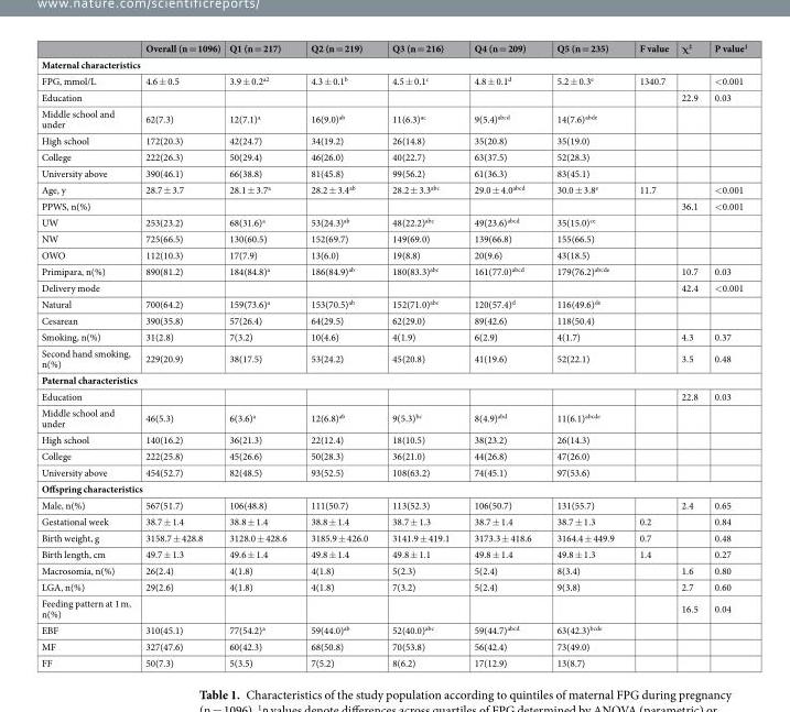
<table><thead><tr><td></td><td>Overall (n = 1096)</td><td>Q1 (n = 217)</td><td>Q2 (n = 219)</td><td>Q3 (n = 216)</td><td>Q4 (n = 209)</td><td>Q5 (n = 235)</td><td>F value</td><td>χ<sup>2</sup></td><td>P value<sup>1</sup></td></tr></thead><tbody><tr><td colspan="10">Maternal characteristics</td></tr><tr><td>FPG, mmol/L</td><td>4.6 ± 0.5</td><td>3.9 ± 0.2<sup>a2</sup></td><td>4.3 ± 0.1<sup>b</sup></td><td>4.5 ± 0.1<sup>c</sup></td><td>4.8 ± 0.1<sup>d</sup></td><td>5.2 ± 0.3<sup>e</sup></td><td>1340.7</td><td></td><td>&lt;0.001</td></tr><tr><td>Education</td><td></td><td></td><td></td><td></td><td></td><td></td><td></td><td>22.9</td><td>0.03</td></tr><tr><td>Middle school and under</td><td>62(7.3)</td><td>12(7.1)<sup>a</sup></td><td>16(9.0)<sup>ab</sup></td><td>11(6.3)<sup>ac</sup></td><td>9(5.4)<sup>abcd</sup></td><td>14(7.6)<sup>abde</sup></td><td></td><td></td><td></td></tr><tr><td>High school</td><td>172(20.3)</td><td>42(24.7)</td><td>34(19.2)</td><td>26(14.8)</td><td>35(20.8)</td><td>35(19.0)</td><td></td><td></td><td></td></tr><tr><td>College</td><td>222(26.3)</td><td>50(29.4)</td><td>46(26.0)</td><td>40(22.7)</td><td>63(37.5)</td><td>52(28.3)</td><td></td><td></td><td></td></tr><tr><td>University above</td><td>390(46.1)</td><td>66(38.8)</td><td>81(45.8)</td><td>99(56.2)</td><td>61(36.3)</td><td>83(45.1)</td><td></td><td></td><td></td></tr><tr><td>Age, y</td><td>28.7 ± 3.7</td><td>28.1 ± 3.7<sup>a</sup></td><td>28.2 ± 3.4<sup>ab</sup></td><td>28.2 ± 3.3<sup>abc</sup></td><td>29.0 ± 4.0<sup>abcd</sup></td><td>30.0 ± 3.8<sup>e</sup></td><td>11.7</td><td></td><td>&lt;0.001</td></tr><tr><td>PPWS, n(%)</td><td></td><td></td><td></td><td></td><td></td><td></td><td></td><td>36.1</td><td>&lt;0.001</td></tr><tr><td>UW</td><td>253(23.2)</td><td>68(31.6)<sup>a</sup></td><td>53(24.3)<sup>ab</sup></td><td>48(22.2)<sup>abc</sup></td><td>49(23.6)<sup>abcd</sup></td><td>35(15.0)<sup>ce</sup></td><td></td><td></td><td></td></tr><tr><td>NW</td><td>725(66.5)</td><td>130(60.5)</td><td>152(69.7)</td><td>149(69.0)</td><td>139(66.8)</td><td>155(66.5)</td><td></td><td></td><td></td></tr><tr><td>OWO</td><td>112(10.3)</td><td>17(7.9)</td><td>13(6.0)</td><td>19(8.8)</td><td>20(9.6)</td><td>43(18.5)</td><td></td><td></td><td></td></tr><tr><td>Primipara, n(%)</td><td>890(81.2)</td><td>184(84.8)<sup>a</sup></td><td>186(84.9)<sup>ab</sup></td><td>180(83.3)<sup>abc</sup></td><td>161(77.0)<sup>abcd</sup></td><td>179(76.2)<sup>abcde</sup></td><td></td><td>10.7</td><td>0.03</td></tr><tr><td>Delivery mode</td><td></td><td></td><td></td><td></td><td></td><td></td><td></td><td>42.4</td><td>&lt;0.001</td></tr><tr><td>Natural</td><td>700(64.2)</td><td>159(73.6)<sup>a</sup></td><td>153(70.5)<sup>ab</sup></td><td>152(71.0)<sup>abc</sup></td><td>120(57.4)<sup>d</sup></td><td>116(49.6)<sup>de</sup></td><td></td><td></td><td></td></tr><tr><td>Cesarean</td><td>390(35.8)</td><td>57(26.4)</td><td>64(29.5)</td><td>62(29.0)</td><td>89(42.6)</td><td>118(50.4)</td><td></td><td></td><td></td></tr><tr><td>Smoking, n(%)</td><td>31(2.8)</td><td>7(3.2)</td><td>10(4.6)</td><td>4(1.9)</td><td>6(2.9)</td><td>4(1.7)</td><td></td><td>4.3</td><td>0.37</td></tr><tr><td>Second hand smoking, n(%)</td><td>229(20.9)</td><td>38(17.5)</td><td>53(24.2)</td><td>45(20.8)</td><td>41(19.6)</td><td>52(22.1)</td><td></td><td>3.5</td><td>0.48</td></tr><tr><td colspan="10">Paternal characteristics</td></tr><tr><td>Education</td><td></td><td></td><td></td><td></td><td></td><td></td><td></td><td>22.8</td><td>0.03</td></tr><tr><td>Middle school and under</td><td>46(5.3)</td><td>6(3.6)<sup>a</sup></td><td>12(6.8)<sup>ab</sup></td><td>9(5.3)<sup>bc</sup></td><td>8(4.9)<sup>abd</sup></td><td>11(6.1)<sup>abcde</sup></td><td></td><td></td><td></td></tr><tr><td>High school</td><td>140(16.2)</td><td>36(21.3)</td><td>22(12.4)</td><td>18(10.5)</td><td>38(23.2)</td><td>26(14.3)</td><td></td><td></td><td></td></tr><tr><td>College</td><td>222(25.8)</td><td>45(26.6)</td><td>50(28.3)</td><td>36(21.0)</td><td>44(26.8)</td><td>47(26.0)</td><td></td><td></td><td></td></tr><tr><td>University above</td><td>454(52.7)</td><td>82(48.5)</td><td>93(52.5)</td><td>108(63.2)</td><td>74(45.1)</td><td>97(53.6)</td><td></td><td></td><td></td></tr><tr><td colspan="10">Offspring characteristics</td></tr><tr><td>Male, n(%)</td><td>567(51.7)</td><td>106(48.8)</td><td>111(50.7)</td><td>113(52.3)</td><td>106(50.7)</td><td>131(55.7)</td><td></td><td>2.4</td><td>0.65</td></tr><tr><td>Gestational week</td><td>38.7 ± 1.4</td><td>38.8 ± 1.4</td><td>38.8 ± 1.4</td><td>38.7 ± 1.3</td><td>38.7 ± 1.4</td><td>38.7 ± 1.3</td><td>0.2</td><td></td><td>0.84</td></tr><tr><td>Birth weight, g</td><td>3158.7 ± 428.8</td><td>3128.0 ± 428.6</td><td>3185.9 ± 426.0</td><td>3141.9 ± 419.1</td><td>3173.3 ± 418.6</td><td>3164.4 ± 449.9</td><td>0.7</td><td></td><td>0.48</td></tr><tr><td>Birth length, cm</td><td>49.7 ± 1.3</td><td>49.6 ± 1.4</td><td>49.8 ± 1.4</td><td>49.8 ± 1.1</td><td>49.8 ± 1.4</td><td>49.8 ± 1.3</td><td>1.4</td><td></td><td>0.27</td></tr><tr><td>Macrosomia, n(%)</td><td>26(2.4)</td><td>4(1.8)</td><td>4(1.8)</td><td>5(2.3)</td><td>5(2.4)</td><td>8(3.4)</td><td></td><td>1.6</td><td>0.80</td></tr><tr><td>LGA, n(%)</td><td>29(2.6)</td><td>4(1.8)</td><td>4(1.8)</td><td>7(3.2)</td><td>5(2.4)</td><td>9(3.8)</td><td></td><td>2.7</td><td>0.60</td></tr><tr><td>Feeding pattern at 1 m, n(%)</td><td></td><td></td><td></td><td></td><td></td><td></td><td></td><td>16.5</td><td>0.04</td></tr><tr><td>EBF</td><td>310(45.1)</td><td>77(54.2)<sup>a</sup></td><td>59(44.0)<sup>ab</sup></td><td>52(40.0)<sup>abc</sup></td><td>59(44.7)<sup>abcd</sup></td><td>63(42.3)<sup>bcde</sup></td><td></td><td></td><td></td></tr><tr><td>MF</td><td>327(47.6)</td><td>60(42.3)</td><td>68(50.8)</td><td>70(53.8)</td><td>56(42.4)</td><td>73(49.0)</td><td></td><td></td><td></td></tr><tr><td>FF</td><td>50(7.3)</td><td>5(3.5)</td><td>7(5.2)</td><td>8(6.2)</td><td>17(12.9)</td><td>13(8.7)</td><td></td><td></td><td></td></tr></tbody></table>